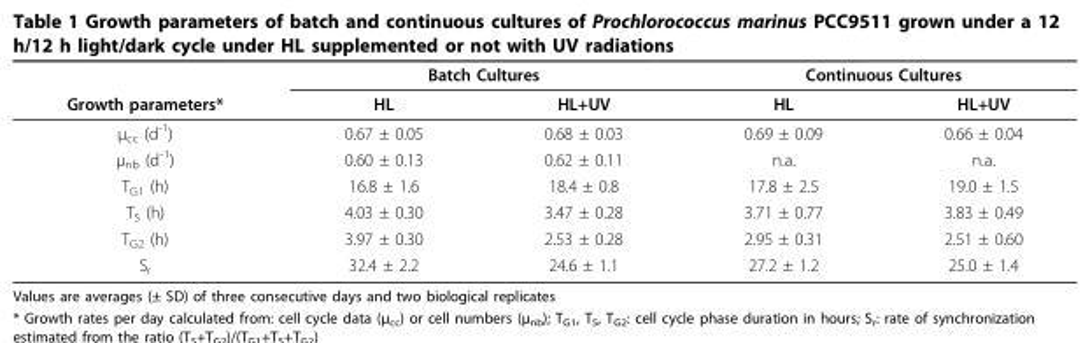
<table><thead><tr><td rowspan="2">Growth parameters*</td><td colspan="2">Batch Cultures</td><td colspan="2">Continuous Cultures</td></tr><tr><td>HL</td><td>HL+UV</td><td>HL</td><td>HL+UV</td></tr></thead><tbody><tr><td>μ<sub>cc</sub> (d<sup>-1</sup>)</td><td>0.67 ± 0.05</td><td>0.68 ± 0.03</td><td>0.69 ± 0.09</td><td>0.66 ± 0.04</td></tr><tr><td>μ<sub>nb</sub> (d<sup>-1</sup>)</td><td>0.60 ± 0.13</td><td>0.62 ± 0.11</td><td>n.a.</td><td>n.a.</td></tr><tr><td>T<sub>G1</sub> (h)</td><td>16.8 ± 1.6</td><td>18.4 ± 0.8</td><td>17.8 ± 2.5</td><td>19.0 ± 1.5</td></tr><tr><td>T<sub>S</sub> (h)</td><td>4.03 ± 0.30</td><td>3.47 ± 0.28</td><td>3.71 ± 0.77</td><td>3.83 ± 0.49</td></tr><tr><td>T<sub>G2</sub> (h)</td><td>3.97 ± 0.30</td><td>2.53 ± 0.28</td><td>2.95 ± 0.31</td><td>2.51 ± 0.60</td></tr><tr><td>S<sub>r</sub></td><td>32.4 ± 2.2</td><td>24.6 ± 1.1</td><td>27.2 ± 1.2</td><td>25.0 ± 1.4</td></tr></tbody></table>